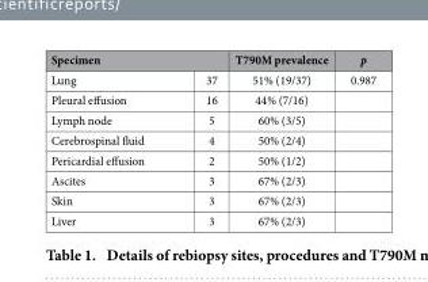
<table><thead><tr><td colspan="2">Specimen</td><td rowspan="2">T790M prevalence 51% (19/37)</td><td rowspan="2">p 0.987</td></tr><tr><td>Lung</td><td>37</td></tr></thead><tbody><tr><td>Pleural effusion</td><td>16</td><td>44% (7/16)</td><td></td></tr><tr><td>Lymph node</td><td>5</td><td>60% (3/5)</td><td></td></tr><tr><td>Cerebrospinal fluid</td><td>4</td><td>50% (2/4)</td><td></td></tr><tr><td>Pericardial effusion</td><td>2</td><td>50% (1/2)</td><td></td></tr><tr><td>Ascites</td><td>3</td><td>67% (2/3)</td><td></td></tr><tr><td>Skin</td><td>3</td><td>67% (2/3)</td><td></td></tr><tr><td>Liver</td><td>3</td><td>67% (2/3)</td><td></td></tr></tbody></table>